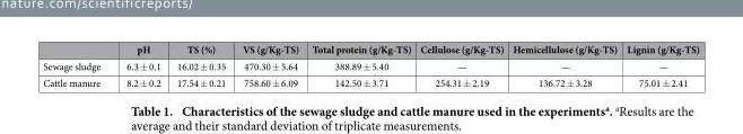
<table><thead><tr><td></td><td>pH</td><td>TS (%)</td><td>VS (g/Kg-TS)</td><td>Total protein (g/Kg-TS)</td><td>Cellulose (g/Kg-TS)</td><td>Hemicellulose (g/Kg-TS)</td><td>Lignin (g/Kg-TS)</td></tr></thead><tbody><tr><td>Sewage sludge</td><td>6.3 ± 0.1</td><td>16.02 ± 0.35</td><td>470.30 ± 5.64</td><td>388.89 ± 5.40</td><td>—</td><td>—</td><td>—</td></tr><tr><td>Cattle manure</td><td>8.2 ± 0.2</td><td>17.54 ± 0.21</td><td>758.60 ± 6.09</td><td>142.50 ± 3.71</td><td>254.31 ± 2.19</td><td>136.72 ± 3.28</td><td>75.01 ± 2.41</td></tr></tbody></table>